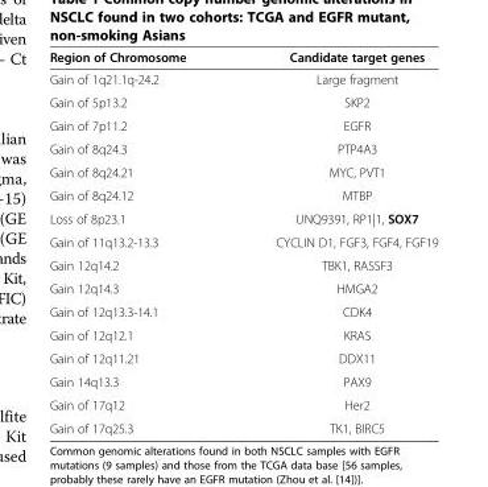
<table><thead><tr><td>Region of Chromosome</td><td>Candidate target genes</td></tr></thead><tbody><tr><td>Gain of 1q21.1q-24.2</td><td>Large fragment</td></tr><tr><td>Gain of 5p13.2</td><td>SKP2</td></tr><tr><td>Gain of 7p11.2</td><td>EGFR</td></tr><tr><td>Gain of 8q24.3</td><td>PTP4A3</td></tr><tr><td>Gain of 8q24.21</td><td>MYC, PVT1</td></tr><tr><td>Gain of 8q24.12</td><td>MTBP</td></tr><tr><td>Loss of 8p23.1</td><td>UNQ9391, RP1|1, SOX7</td></tr><tr><td>Gain of 11q13.2-13.3</td><td>CYCLIN D1, FGF3, FGF4, FGF19</td></tr><tr><td>Gain 12q14.2</td><td>TBK1, RASSF3</td></tr><tr><td>Gain 12q14.3</td><td>HMGA2</td></tr><tr><td>Gain of 12q13.3-14.1</td><td>CDK4</td></tr><tr><td>Gain of 12q12.1</td><td>KRAS</td></tr><tr><td>Gain of 12q11.21</td><td>DDX11</td></tr><tr><td>Gain 14q13.3</td><td>PAX9</td></tr><tr><td>Gain of 17q12</td><td>Her2</td></tr><tr><td>Gain of 17q25.3</td><td>TK1, BIRC5</td></tr></tbody></table>